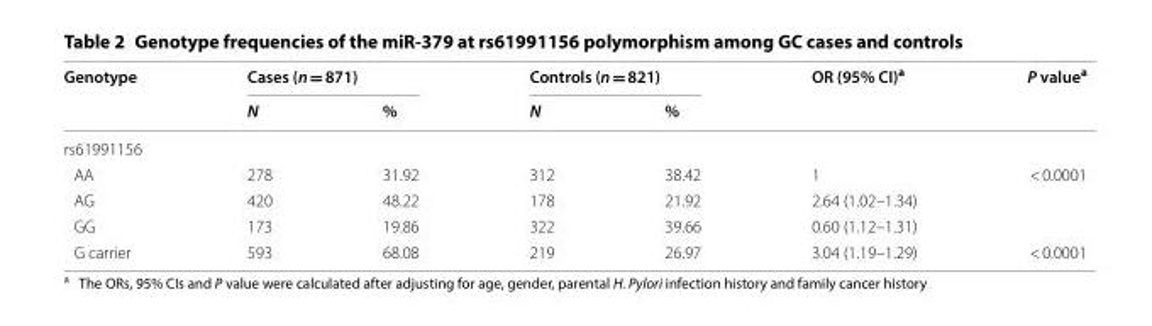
<table><thead><tr><td rowspan="2">Genotype</td><td colspan="2">Cases (n = 871)</td><td colspan="2">Controls (n = 821)</td><td rowspan="2">OR (95% CI)<sup>a</sup></td><td rowspan="2">P value<sup>a</sup></td></tr><tr><td>N</td><td>%</td><td>N</td><td>%</td></tr></thead><tbody><tr><td colspan="7">rs61991156</td></tr><tr><td>AA</td><td>278</td><td>31.92</td><td>312</td><td>38.42</td><td>1</td><td>&lt; 0.0001</td></tr><tr><td>AG</td><td>420</td><td>48.22</td><td>178</td><td>21.92</td><td>2.64 (1.02–1.34)</td><td></td></tr><tr><td>GG</td><td>173</td><td>19.86</td><td>322</td><td>39.66</td><td>0.60 (1.12–1.31)</td><td></td></tr><tr><td>G carrier</td><td>593</td><td>68.08</td><td>219</td><td>26.97</td><td>3.04 (1.19–1.29)</td><td>&lt; 0.0001</td></tr></tbody></table>